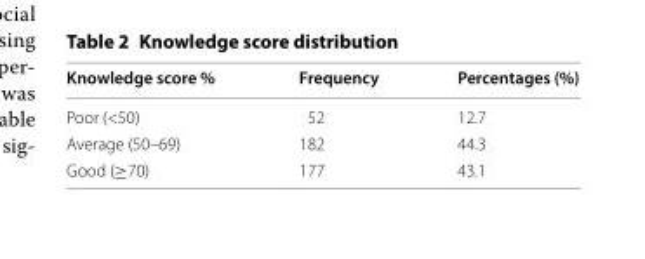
<table><thead><tr><td>Knowledge score %</td><td>Frequency</td><td>Percentages (%)</td></tr></thead><tbody><tr><td>Poor (&lt;50)</td><td>52</td><td>12.7</td></tr><tr><td>Average (50–69)</td><td>182</td><td>44.3</td></tr><tr><td>Good (≥70)</td><td>177</td><td>43.1</td></tr></tbody></table>